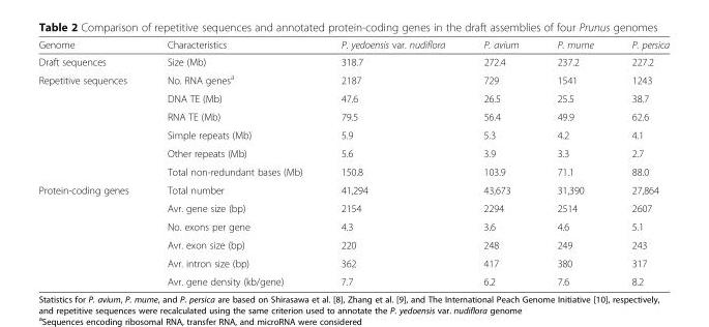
<table><thead><tr><td>Genome</td><td>Characteristics</td><td>P. yedoensis var. nudiflora</td><td>P. avium</td><td>P. mume</td><td>P. persica</td></tr></thead><tbody><tr><td>Draft sequences</td><td>Size (Mb)</td><td>318.7</td><td>272.4</td><td>237.2</td><td>227.2</td></tr><tr><td rowspan="6">Repetitive sequences</td><td>No. RNA genes<sup>a</sup></td><td>2187</td><td>729</td><td>1541</td><td>1243</td></tr><tr><td>DNA TE (Mb)</td><td>47.6</td><td>26.5</td><td>25.5</td><td>38.7</td></tr><tr><td>RNA TE (Mb)</td><td>79.5</td><td>56.4</td><td>49.9</td><td>62.6</td></tr><tr><td>Simple repeats (Mb)</td><td>5.9</td><td>5.3</td><td>4.2</td><td>4.1</td></tr><tr><td>Other repeats (Mb)</td><td>5.6</td><td>3.9</td><td>3.3</td><td>2.7</td></tr><tr><td>Total non-redundant bases (Mb)</td><td>150.8</td><td>103.9</td><td>71.1</td><td>88.0</td></tr><tr><td rowspan="6">Protein-coding genes</td><td>Total number</td><td>41,294</td><td>43,673</td><td>31,390</td><td>27,864</td></tr><tr><td>Avr. gene size (bp)</td><td>2154</td><td>2294</td><td>2514</td><td>2607</td></tr><tr><td>No. exons per gene</td><td>4.3</td><td>3.6</td><td>4.6</td><td>5.1</td></tr><tr><td>Avr. exon size (bp)</td><td>220</td><td>248</td><td>249</td><td>243</td></tr><tr><td>Avr. intron size (bp)</td><td>362</td><td>417</td><td>380</td><td>317</td></tr><tr><td>Avr. gene density (kb/gene)</td><td>7.7</td><td>6.2</td><td>7.6</td><td>8.2</td></tr></tbody></table>